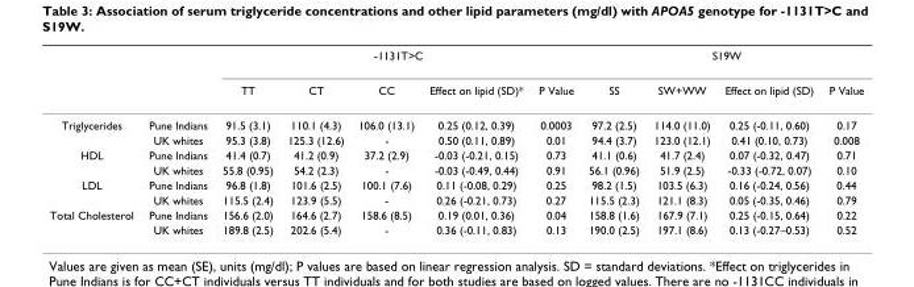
<table><thead><tr><td rowspan="2"></td><td rowspan="2"></td><td colspan="5">-1131T&gt;C</td><td colspan="4">S19W</td></tr><tr><td>TT</td><td>CT</td><td>CC</td><td>Effect on lipid (SD)*</td><td>P Value</td><td>SS</td><td>SW+WW</td><td>Effect on lipid (SD)</td><td>P Value</td></tr></thead><tbody><tr><td rowspan="2">Triglycerides</td><td>Pune Indians</td><td>91.5 (3.1)</td><td>110.1 (4.3)</td><td>106.0 (13.1)</td><td>0.25 (0.12, 0.39)</td><td>0.0003</td><td>97.2 (2.5)</td><td>114.0 (11.0)</td><td>0.25 (-0.11, 0.60)</td><td>0.17</td></tr><tr><td>UK whites</td><td>95.3 (3.8)</td><td>125.3 (12.6)</td><td>-</td><td>0.50 (0.11, 0.89)</td><td>0.01</td><td>94.4 (3.7)</td><td>123.0 (12.1)</td><td>0.41 (0.10, 0.73)</td><td>0.008</td></tr><tr><td rowspan="2">HDL</td><td>Pune Indians</td><td>41.4 (0.7)</td><td>41.2 (0.9)</td><td>37.2 (2.9)</td><td>-0.03 (-0.21, 0.15)</td><td>0.73</td><td>41.1 (0.6)</td><td>41.7 (2.4)</td><td>0.07 (-0.32, 0.47)</td><td>0.71</td></tr><tr><td>UK whites</td><td>55.8 (0.95)</td><td>54.2 (2.3)</td><td>-</td><td>-0.03 (-0.49, 0.44)</td><td>0.91</td><td>56.1 (0.96)</td><td>51.9 (2.5)</td><td>-0.33 (-0.72, 0.07)</td><td>0.10</td></tr><tr><td rowspan="2">LDL</td><td>Pune Indians</td><td>96.8 (1.8)</td><td>101.6 (2.5)</td><td>100.1 (7.6)</td><td>0.11 (-0.08, 0.29)</td><td>0.25</td><td>98.2 (1.5)</td><td>103.5 (6.3)</td><td>0.16 (-0.24, 0.56)</td><td>0.44</td></tr><tr><td>UK whites</td><td>115.5 (2.4)</td><td>123.9 (5.5)</td><td>-</td><td>0.26 (-0.21, 0.73)</td><td>0.27</td><td>115.5 (2.3)</td><td>121.1 (8.3)</td><td>0.05 (-0.35, 0.46)</td><td>0.79</td></tr><tr><td rowspan="2">Total Cholesterol</td><td>Pune Indians</td><td>156.6 (2.0)</td><td>164.6 (2.7)</td><td>158.6 (8.5)</td><td>0.19 (0.01, 0.36)</td><td>0.04</td><td>158.8 (1.6)</td><td>167.9 (7.1)</td><td>0.25 (-0.15, 0.64)</td><td>0.22</td></tr><tr><td>UK whites</td><td>189.8 (2.5)</td><td>202.6 (5.4)</td><td>-</td><td>0.36 (-0.11, 0.83)</td><td>0.13</td><td>190.0 (2.5)</td><td>197.1 (8.6)</td><td>0.13 (-0.27–0.53)</td><td>0.52</td></tr></tbody></table>